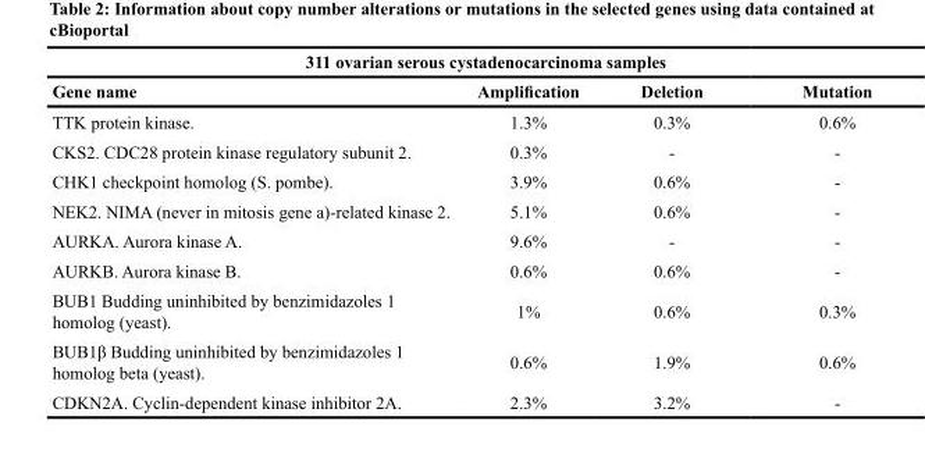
<table><thead><tr><td colspan="4">311 ovarian serous cystadenocarcinoma samples</td></tr><tr><td>Gene name</td><td>Amplification</td><td>Deletion</td><td>Mutation</td></tr></thead><tbody><tr><td>TTK protein kinase.</td><td>1.3%</td><td>0.3%</td><td>0.6%</td></tr><tr><td>CKS2. CDC28 protein kinase regulatory subunit 2.</td><td>0.3%</td><td>-</td><td>-</td></tr><tr><td>CHK1 checkpoint homolog (S. pombe).</td><td>3.9%</td><td>0.6%</td><td>-</td></tr><tr><td>NEK2. NIMA (never in mitosis gene a)-related kinase 2.</td><td>5.1%</td><td>0.6%</td><td>-</td></tr><tr><td>AURKA. Aurora kinase A.</td><td>9.6%</td><td>-</td><td>-</td></tr><tr><td>AURKB. Aurora kinase B.</td><td>0.6%</td><td>0.6%</td><td>-</td></tr><tr><td>BUB1 Budding uninhibited by benzimidazoles 1 homolog (yeast).</td><td>1%</td><td>0.6%</td><td>0.3%</td></tr><tr><td>BUB1β Budding uninhibited by benzimidazoles 1 homolog beta (yeast).</td><td>0.6%</td><td>1.9%</td><td>0.6%</td></tr><tr><td>CDKN2A. Cyclin-dependent kinase inhibitor 2A.</td><td>2.3%</td><td>3.2%</td><td>-</td></tr></tbody></table>